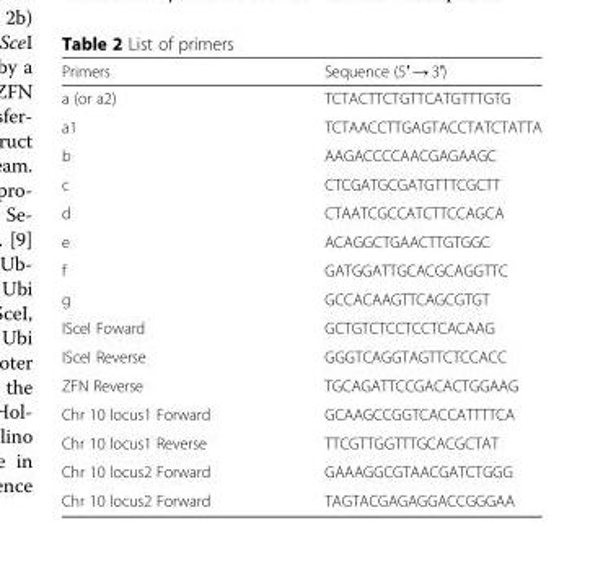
<table><thead><tr><td>Primers</td><td>Sequence (5′ → 3′)</td></tr></thead><tbody><tr><td>a (or a2)</td><td>TCTACTTCTGTTCATGTTTGTG</td></tr><tr><td>a1</td><td>TCTAACCTTGAGTACCTATCTATTA</td></tr><tr><td>b</td><td>AAGACCCCAACGAGAAGC</td></tr><tr><td>c</td><td>CTCGATGCGATGTTTCGCTT</td></tr><tr><td>d</td><td>CTAATCGCCATCTTCCAGCA</td></tr><tr><td>e</td><td>ACAGGCTGAACTTGTGGC</td></tr><tr><td>f</td><td>GATGGATTGCACGCAGGTTC</td></tr><tr><td>g</td><td>GCCACAAGTTCAGCGTGT</td></tr><tr><td>ISceI Foward</td><td>GCTGTCTCCTCCTCACAAG</td></tr><tr><td>ISceI Reverse</td><td>GGGTCAGGTAGTTCTCCACC</td></tr><tr><td>ZFN Reverse</td><td>TGCAGATTCCGACACTGGAAG</td></tr><tr><td>Chr 10 locus1 Forward</td><td>GCAAGCCGGTCACCATTTTCA</td></tr><tr><td>Chr 10 locus1 Reverse</td><td>TTCGTTGGTTTGCACGCTAT</td></tr><tr><td>Chr 10 locus2 Forward</td><td>GAAAGGCGTAACGATCTGGG</td></tr><tr><td>Chr 10 locus2 Forward</td><td>TAGTACGAGAGGACCGGGAA</td></tr></tbody></table>